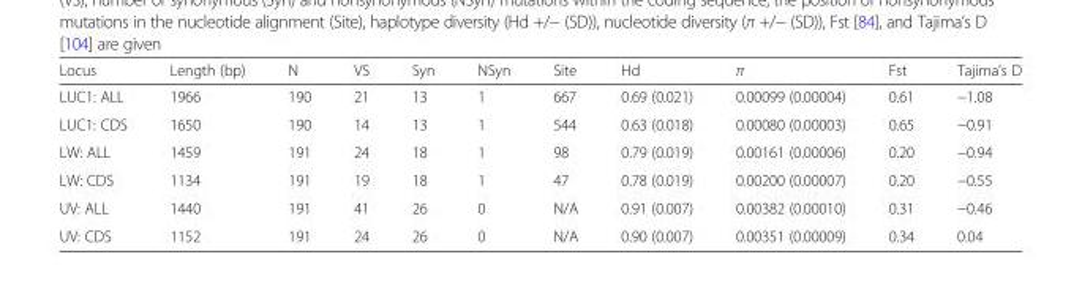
<table><thead><tr><td>Locus</td><td>Length (bp)</td><td>N</td><td>VS</td><td>Syn</td><td>NSyn</td><td>Site</td><td>Hd</td><td>π</td><td>Fst</td><td>Tajima’s D</td></tr></thead><tbody><tr><td>LUC1: ALL</td><td>1966</td><td>190</td><td>21</td><td>13</td><td>1</td><td>667</td><td>0.69 (0.021)</td><td>0.00099 (0.00004)</td><td>0.61</td><td>−1.08</td></tr><tr><td>LUC1: CDS</td><td>1650</td><td>190</td><td>14</td><td>13</td><td>1</td><td>544</td><td>0.63 (0.018)</td><td>0.00080 (0.00003)</td><td>0.65</td><td>−0.91</td></tr><tr><td>LW: ALL</td><td>1459</td><td>191</td><td>24</td><td>18</td><td>1</td><td>98</td><td>0.79 (0.019)</td><td>0.00161 (0.00006)</td><td>0.20</td><td>−0.94</td></tr><tr><td>LW: CDS</td><td>1134</td><td>191</td><td>19</td><td>18</td><td>1</td><td>47</td><td>0.78 (0.019)</td><td>0.00200 (0.00007)</td><td>0.20</td><td>−0.55</td></tr><tr><td>UV: ALL</td><td>1440</td><td>191</td><td>41</td><td>26</td><td>0</td><td>N/A</td><td>0.91 (0.007)</td><td>0.00382 (0.00010)</td><td>0.31</td><td>−0.46</td></tr><tr><td>UV: CDS</td><td>1152</td><td>191</td><td>24</td><td>26</td><td>0</td><td>N/A</td><td>0.90 (0.007)</td><td>0.00351 (0.00009)</td><td>0.34</td><td>0.04</td></tr></tbody></table>